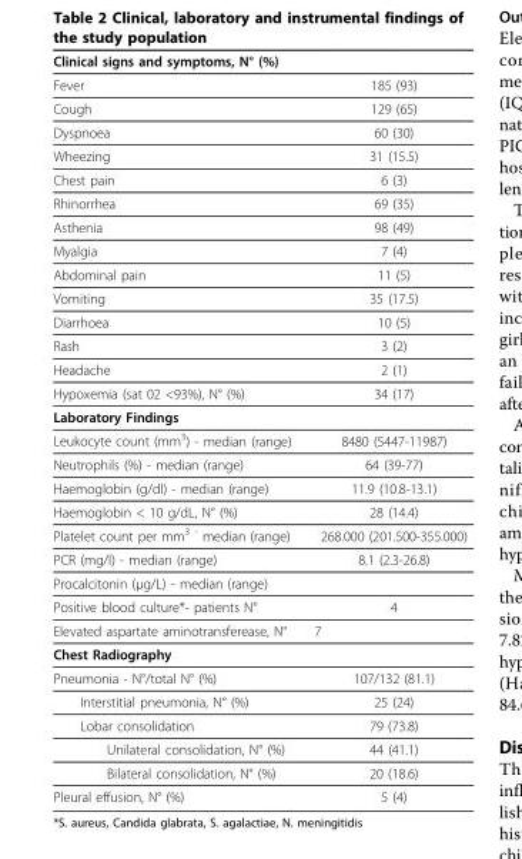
<table><thead><tr><td>Clinical signs and symptoms, N° (%)</td><td></td></tr></thead><tbody><tr><td>Fever</td><td>185 (93)</td></tr><tr><td>Cough</td><td>129 (65)</td></tr><tr><td>Dyspnoea</td><td>60 (30)</td></tr><tr><td>Wheezing</td><td>31 (15.5)</td></tr><tr><td>Chest pain</td><td>6 (3)</td></tr><tr><td>Rhinorrhea</td><td>69 (35)</td></tr><tr><td>Asthenia</td><td>98 (49)</td></tr><tr><td>Myalgia</td><td>7 (4)</td></tr><tr><td>Abdominal pain</td><td>11 (5)</td></tr><tr><td>Vomiting</td><td>35 (17.5)</td></tr><tr><td>Diarrhoea</td><td>10 (5)</td></tr><tr><td>Rash</td><td>3 (2)</td></tr><tr><td>Headache</td><td>2 (1)</td></tr><tr><td>Hypoxemia (sat 02 &lt;93%), N° (%)</td><td>34 (17)</td></tr><tr><td colspan="2">Laboratory Findings</td></tr><tr><td>Leukocyte count (mm<sup>3</sup>) - median (range)</td><td>8480 (5447-11987)</td></tr><tr><td>Neutrophils (%) - median (range)</td><td>64 (39-77)</td></tr><tr><td>Haemoglobin (g/dl) - median (range)</td><td>11.9 (10.8-13.1)</td></tr><tr><td>Haemoglobin &lt; 10 g/dL, N° (%)</td><td>28 (14.4)</td></tr><tr><td>Platelet count per mm<sup>3 -</sup> median (range)</td><td>268.000 (201.500-355.000)</td></tr><tr><td>PCR (mg/l) - median (range)</td><td>8.1 (2.3-26.8)</td></tr><tr><td colspan="2">Procalcitonin (μg/L) - median (range)</td></tr><tr><td>Positive blood culture*- patients N°</td><td>4</td></tr><tr><td>Elevated aspartate aminotransferease, N°</td><td>7</td></tr><tr><td colspan="2">Chest Radiography</td></tr><tr><td>Pneumonia - N°/total N° (%)</td><td>107/132 (81.1)</td></tr><tr><td>Interstitial pneumonia, N° (%)</td><td>25 (24)</td></tr><tr><td>Lobar consolidation</td><td>79 (73.8)</td></tr><tr><td>Unilateral consolidation, N° (%)</td><td>44 (41.1)</td></tr><tr><td>Bilateral consolidation, N° (%)</td><td>20 (18.6)</td></tr><tr><td>Pleural effusion, N° (%)</td><td>5 (4)</td></tr></tbody></table>